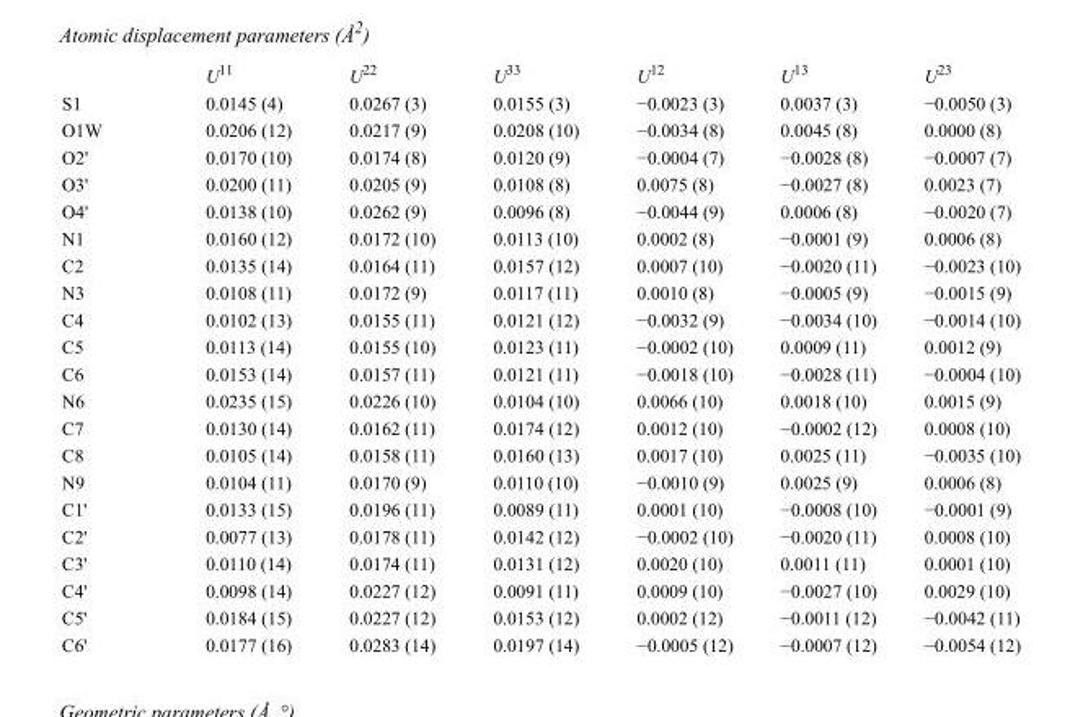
<table><thead><tr><td></td><td>U<sup>11</sup></td><td>U<sup>22</sup></td><td>U<sup>33</sup></td><td>U<sup>12</sup></td><td>U<sup>13</sup></td><td>U<sup>23</sup></td></tr></thead><tbody><tr><td>S1</td><td>0.0145 (4)</td><td>0.0267 (3)</td><td>0.0155 (3)</td><td>−0.0023 (3)</td><td>0.0037 (3)</td><td>−0.0050 (3)</td></tr><tr><td>O1W</td><td>0.0206 (12)</td><td>0.0217 (9)</td><td>0.0208 (10)</td><td>−0.0034 (8)</td><td>0.0045 (8)</td><td>0.0000 (8)</td></tr><tr><td>O2&#x27;</td><td>0.0170 (10)</td><td>0.0174 (8)</td><td>0.0120 (9)</td><td>−0.0004 (7)</td><td>−0.0028 (8)</td><td>−0.0007 (7)</td></tr><tr><td>O3&#x27;</td><td>0.0200 (11)</td><td>0.0205 (9)</td><td>0.0108 (8)</td><td>0.0075 (8)</td><td>−0.0027 (8)</td><td>0.0023 (7)</td></tr><tr><td>O4&#x27;</td><td>0.0138 (10)</td><td>0.0262 (9)</td><td>0.0096 (8)</td><td>−0.0044 (9)</td><td>0.0006 (8)</td><td>−0.0020 (7)</td></tr><tr><td>N1</td><td>0.0160 (12)</td><td>0.0172 (10)</td><td>0.0113 (10)</td><td>0.0002 (8)</td><td>−0.0001 (9)</td><td>0.0006 (8)</td></tr><tr><td>C2</td><td>0.0135 (14)</td><td>0.0164 (11)</td><td>0.0157 (12)</td><td>0.0007 (10)</td><td>−0.0020 (11)</td><td>−0.0023 (10)</td></tr><tr><td>N3</td><td>0.0108 (11)</td><td>0.0172 (9)</td><td>0.0117 (11)</td><td>0.0010 (8)</td><td>−0.0005 (9)</td><td>−0.0015 (9)</td></tr><tr><td>C4</td><td>0.0102 (13)</td><td>0.0155 (11)</td><td>0.0121 (12)</td><td>−0.0032 (9)</td><td>−0.0034 (10)</td><td>−0.0014 (10)</td></tr><tr><td>C5</td><td>0.0113 (14)</td><td>0.0155 (10)</td><td>0.0123 (11)</td><td>−0.0002 (10)</td><td>0.0009 (11)</td><td>0.0012 (9)</td></tr><tr><td>C6</td><td>0.0153 (14)</td><td>0.0157 (11)</td><td>0.0121 (11)</td><td>−0.0018 (10)</td><td>−0.0028 (11)</td><td>−0.0004 (10)</td></tr><tr><td>N6</td><td>0.0235 (15)</td><td>0.0226 (10)</td><td>0.0104 (10)</td><td>0.0066 (10)</td><td>0.0018 (10)</td><td>0.0015 (9)</td></tr><tr><td>C7</td><td>0.0130 (14)</td><td>0.0162 (11)</td><td>0.0174 (12)</td><td>0.0012 (10)</td><td>−0.0002 (12)</td><td>0.0008 (10)</td></tr><tr><td>C8</td><td>0.0105 (14)</td><td>0.0158 (11)</td><td>0.0160 (13)</td><td>0.0017 (10)</td><td>0.0025 (11)</td><td>−0.0035 (10)</td></tr><tr><td>N9</td><td>0.0104 (11)</td><td>0.0170 (9)</td><td>0.0110 (10)</td><td>−0.0010 (9)</td><td>0.0025 (9)</td><td>0.0006 (8)</td></tr><tr><td>C1&#x27;</td><td>0.0133 (15)</td><td>0.0196 (11)</td><td>0.0089 (11)</td><td>0.0001 (10)</td><td>−0.0008 (10)</td><td>−0.0001 (9)</td></tr><tr><td>C2&#x27;</td><td>0.0077 (13)</td><td>0.0178 (11)</td><td>0.0142 (12)</td><td>−0.0002 (10)</td><td>−0.0020 (11)</td><td>0.0008 (10)</td></tr><tr><td>C3&#x27;</td><td>0.0110 (14)</td><td>0.0174 (11)</td><td>0.0131 (12)</td><td>0.0020 (10)</td><td>0.0011 (11)</td><td>0.0001 (10)</td></tr><tr><td>C4&#x27;</td><td>0.0098 (14)</td><td>0.0227 (12)</td><td>0.0091 (11)</td><td>0.0009 (10)</td><td>−0.0027 (10)</td><td>0.0029 (10)</td></tr><tr><td>C5&#x27;</td><td>0.0184 (15)</td><td>0.0227 (12)</td><td>0.0153 (12)</td><td>0.0002 (12)</td><td>−0.0011 (12)</td><td>−0.0042 (11)</td></tr><tr><td>C6&#x27;</td><td>0.0177 (16)</td><td>0.0283 (14)</td><td>0.0197 (14)</td><td>−0.0005 (12)</td><td>−0.0007 (12)</td><td>−0.0054 (12)</td></tr></tbody></table>